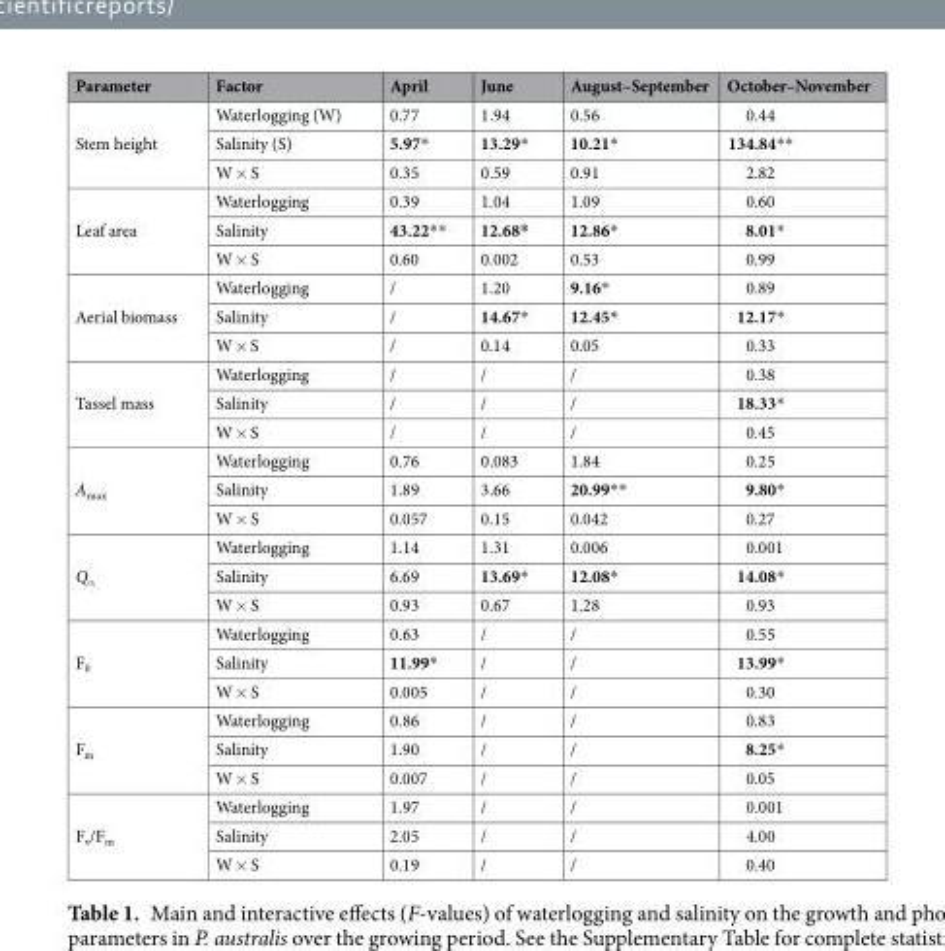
<table><thead><tr><td>Parameter</td><td>Factor</td><td>April</td><td>June</td><td>August–September</td><td>October–November</td></tr></thead><tbody><tr><td rowspan="3">Stem height</td><td>Waterlogging (W)</td><td>0.77</td><td>1.94</td><td>0.56</td><td>0.44</td></tr><tr><td>Salinity (S)</td><td>5.97*</td><td>13.29*</td><td>10.21*</td><td>134.84**</td></tr><tr><td>W × S</td><td>0.35</td><td>0.59</td><td>0.91</td><td>2.82</td></tr><tr><td rowspan="3">Leaf area</td><td>Waterlogging</td><td>0.39</td><td>1.04</td><td>1.09</td><td>0.60</td></tr><tr><td>Salinity</td><td>43.22**</td><td>12.68*</td><td>12.86*</td><td>8.01*</td></tr><tr><td>W × S</td><td>0.60</td><td>0.002</td><td>0.53</td><td>0.99</td></tr><tr><td rowspan="3">Aerial biomass</td><td>Waterlogging</td><td>/</td><td>1.20</td><td>9.16*</td><td>0.89</td></tr><tr><td>Salinity</td><td>/</td><td>14.67*</td><td>12.45*</td><td>12.17*</td></tr><tr><td>W × S</td><td>/</td><td>0.14</td><td>0.05</td><td>0.33</td></tr><tr><td rowspan="3">Tassel mass</td><td>Waterlogging</td><td>/</td><td>/</td><td>/</td><td>0.38</td></tr><tr><td>Salinity</td><td>/</td><td>/</td><td>/</td><td>18.33*</td></tr><tr><td>W × S</td><td>/</td><td>/</td><td>/</td><td>0.45</td></tr><tr><td rowspan="3">A<sub>max</sub></td><td>Waterlogging</td><td>0.76</td><td>0.083</td><td>1.84</td><td>0.25</td></tr><tr><td>Salinity</td><td>1.89</td><td>3.66</td><td>20.99**</td><td>9.80*</td></tr><tr><td>W × S</td><td>0.057</td><td>0.15</td><td>0.042</td><td>0.27</td></tr><tr><td rowspan="3">Q<sub>α</sub></td><td>Waterlogging</td><td>1.14</td><td>1.31</td><td>0.006</td><td>0.001</td></tr><tr><td>Salinity</td><td>6.69</td><td>13.69*</td><td>12.08*</td><td>14.08*</td></tr><tr><td>W × S</td><td>0.93</td><td>0.67</td><td>1.28</td><td>0.93</td></tr><tr><td rowspan="3">F<sub>0</sub></td><td>Waterlogging</td><td>0.63</td><td>/</td><td>/</td><td>0.55</td></tr><tr><td>Salinity</td><td>11.99*</td><td>/</td><td>/</td><td>13.99*</td></tr><tr><td>W × S</td><td>0.005</td><td>/</td><td>/</td><td>0.30</td></tr><tr><td rowspan="3">F<sub>m</sub></td><td>Waterlogging</td><td>0.86</td><td>/</td><td>/</td><td>0.83</td></tr><tr><td>Salinity</td><td>1.90</td><td>/</td><td>/</td><td>8.25*</td></tr><tr><td>W × S</td><td>0.007</td><td>/</td><td>/</td><td>0.05</td></tr><tr><td rowspan="3">F<sub>v</sub>/F<sub>m</sub></td><td>Waterlogging</td><td>1.97</td><td>/</td><td>/</td><td>0.001</td></tr><tr><td>Salinity</td><td>2.05</td><td>/</td><td>/</td><td>4.00</td></tr><tr><td>W × S</td><td>0.19</td><td>/</td><td>/</td><td>0.40</td></tr></tbody></table>